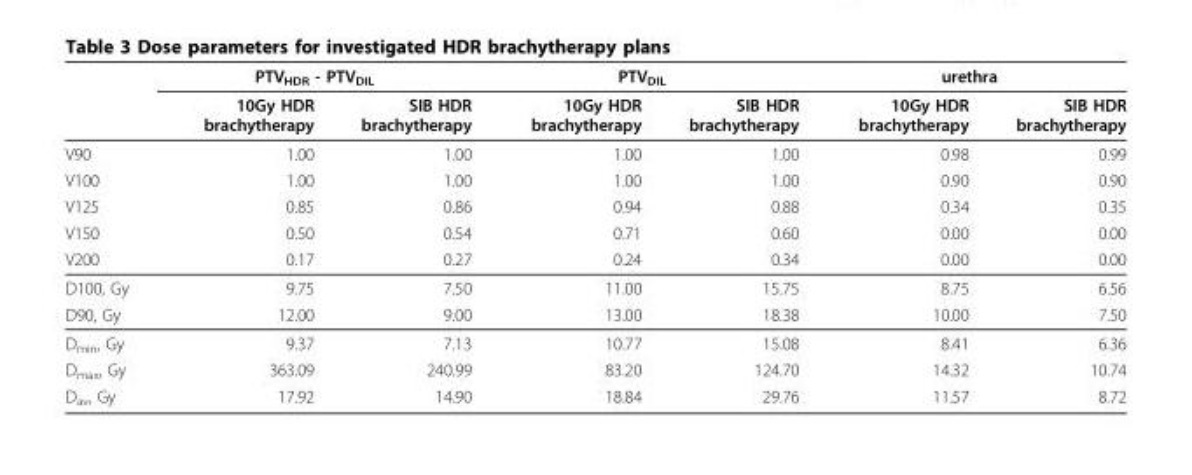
<table><thead><tr><td rowspan="2"></td><td colspan="2">PTV<sub>HDR</sub> - PTV<sub>DIL</sub></td><td colspan="2">PTV<sub>DIL</sub></td><td colspan="2">urethra</td></tr><tr><td>10Gy HDR brachytherapy</td><td>SIB HDR brachytherapy</td><td>10Gy HDR brachytherapy</td><td>SIB HDR brachytherapy</td><td>10Gy HDR brachytherapy</td><td>SIB HDR brachytherapy</td></tr></thead><tbody><tr><td>V90</td><td>1.00</td><td>1.00</td><td>1.00</td><td>1.00</td><td>0.98</td><td>0.99</td></tr><tr><td>V100</td><td>1.00</td><td>1.00</td><td>1.00</td><td>1.00</td><td>0.90</td><td>0.90</td></tr><tr><td>V125</td><td>0.85</td><td>0.86</td><td>0.94</td><td>0.88</td><td>0.34</td><td>0.35</td></tr><tr><td>V150</td><td>0.50</td><td>0.54</td><td>0.71</td><td>0.60</td><td>0.00</td><td>0.00</td></tr><tr><td>V200</td><td>0.17</td><td>0.27</td><td>0.24</td><td>0.34</td><td>0.00</td><td>0.00</td></tr><tr><td>D100, Gy</td><td>9.75</td><td>7.50</td><td>11.00</td><td>15.75</td><td>8.75</td><td>6.56</td></tr><tr><td>D90, Gy</td><td>12.00</td><td>9.00</td><td>13.00</td><td>18.38</td><td>10.00</td><td>7.50</td></tr><tr><td>D<sub>min</sub>, Gy</td><td>9.37</td><td>7.13</td><td>10.77</td><td>15.08</td><td>8.41</td><td>6.36</td></tr><tr><td>D<sub>max</sub>, Gy</td><td>363.09</td><td>240.99</td><td>83.20</td><td>124.70</td><td>14.32</td><td>10.74</td></tr><tr><td>D<sub>av</sub>, Gy</td><td>17.92</td><td>14.90</td><td>18.84</td><td>29.76</td><td>11.57</td><td>8.72</td></tr></tbody></table>